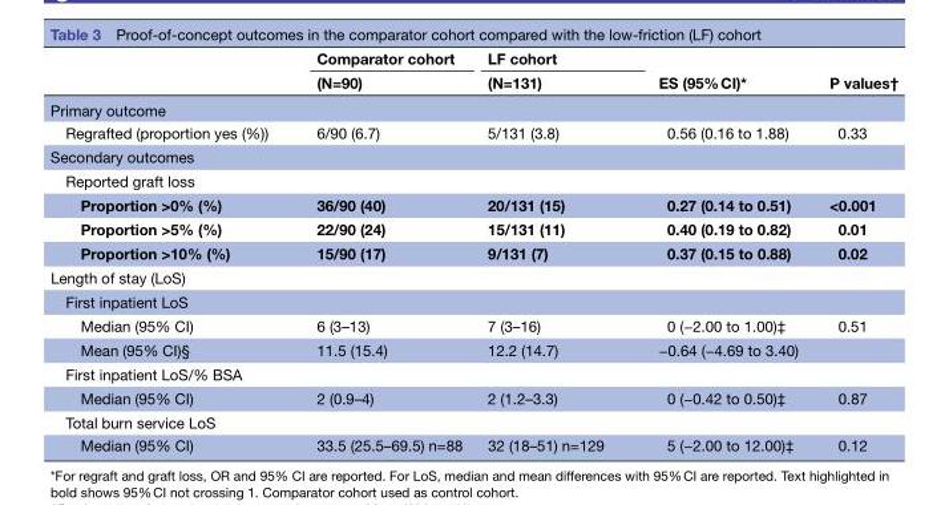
<table><thead><tr><td rowspan="2"></td><td rowspan="2">Comparator cohort (N=90)</td><td rowspan="2">LF cohort (N=131)</td><td rowspan="2">ES (95% CI)*</td><td rowspan="2">P values†</td></tr><tr></tr></thead><tbody><tr><td colspan="5">Primary outcome</td></tr><tr><td>Regrafted (proportion yes (%))</td><td>6/90 (6.7)</td><td>5/131 (3.8)</td><td>0.56 (0.16 to 1.88)</td><td>0.33</td></tr><tr><td colspan="5">Secondary outcomes</td></tr><tr><td colspan="5">Reported graft loss</td></tr><tr><td>Proportion &gt;0% (%)</td><td>36/90 (40)</td><td>20/131 (15)</td><td>0.27 (0.14 to 0.51)</td><td>&lt;0.001</td></tr><tr><td>Proportion &gt;5% (%)</td><td>22/90 (24)</td><td>15/131 (11)</td><td>0.40 (0.19 to 0.82)</td><td>0.01</td></tr><tr><td>Proportion &gt;10% (%)</td><td>15/90 (17)</td><td>9/131 (7)</td><td>0.37 (0.15 to 0.88)</td><td>0.02</td></tr><tr><td colspan="5">Length of stay (LoS)</td></tr><tr><td colspan="5">First inpatient LoS</td></tr><tr><td>Median (95% CI)</td><td>6 (3–13)</td><td>7 (3–16)</td><td>0 (−2.00 to 1.00)‡</td><td>0.51</td></tr><tr><td>Mean (95% CI)§</td><td>11.5 (15.4)</td><td>12.2 (14.7)</td><td>−0.64 (−4.69 to 3.40)</td><td></td></tr><tr><td colspan="5">First inpatient LoS/% BSA</td></tr><tr><td>Median (95% CI)</td><td>2 (0.9–4)</td><td>2 (1.2–3.3)</td><td>0 (−0.42 to 0.50)‡</td><td>0.87</td></tr><tr><td colspan="5">Total burn service LoS</td></tr><tr><td>Median (95% CI)</td><td>33.5 (25.5–69.5) n=88</td><td>32 (18–51) n=129</td><td>5 (−2.00 to 12.00)‡</td><td>0.12</td></tr></tbody></table>